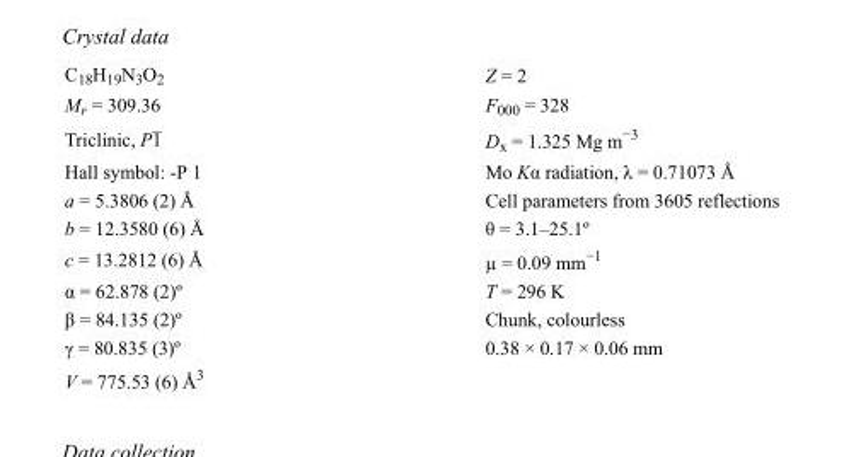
<table><tbody><tr><td>C<sub>18</sub>H<sub>19</sub>N<sub>3</sub>O<sub>2</sub></td><td>Z = 2</td></tr><tr><td>M<sub>r</sub> = 309.36</td><td>F000 = 328</td></tr><tr><td>Triclinic, P1</td><td>D<sub>x</sub> = 1.325 Mg m<sup>−3</sup></td></tr><tr><td>Hall symbol: -P 1</td><td>Mo Kα radiation, λ = 0.71073 Å</td></tr><tr><td>a = 5.3806 (2) Å</td><td>Cell parameters from 3605 reflections</td></tr><tr><td>b = 12.3580 (6) Å</td><td>θ = 3.1–25.1º</td></tr><tr><td>c = 13.2812 (6) Å</td><td>µ = 0.09 mm<sup>−1</sup></td></tr><tr><td>α = 62.878 (2)º</td><td>T = 296 K</td></tr><tr><td>β = 84.135 (2)º</td><td>Chunk, colourless</td></tr><tr><td>γ = 80.835 (3)º</td><td>0.38 × 0.17 × 0.06 mm</td></tr><tr><td>V = 775.53 (6) Å<sup>3</sup></td><td></td></tr></tbody></table>